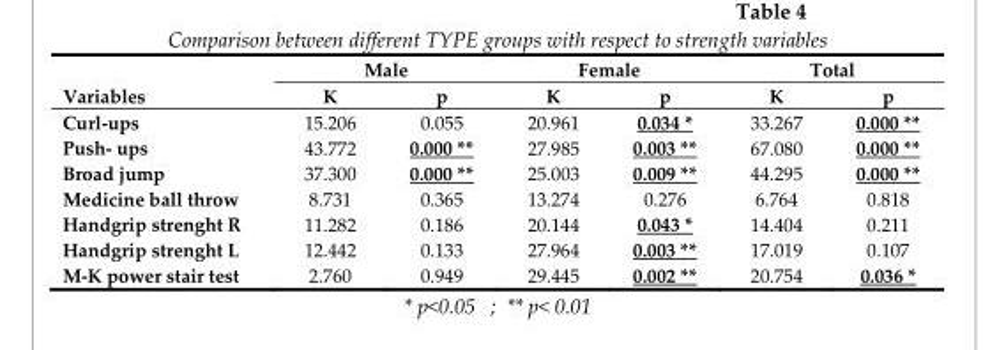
<table><thead><tr><td rowspan="2">Variables</td><td colspan="2">Male</td><td colspan="2">Female</td><td colspan="2">Total</td></tr><tr><td>K</td><td>p</td><td>K</td><td>p</td><td>K</td><td>p</td></tr></thead><tbody><tr><td>Curl-ups</td><td>15.206</td><td>0.055</td><td>20.961</td><td>0.034 *</td><td>33.267</td><td>0.000 **</td></tr><tr><td>Push- ups</td><td>43.772</td><td>0.000 **</td><td>27.985</td><td>0.003 **</td><td>67.080</td><td>0.000 **</td></tr><tr><td>Broad jump</td><td>37.300</td><td>0.000 **</td><td>25.003</td><td>0.009 **</td><td>44.295</td><td>0.000 **</td></tr><tr><td>Medicine ball throw</td><td>8.731</td><td>0.365</td><td>13.274</td><td>0.276</td><td>6.764</td><td>0.818</td></tr><tr><td>Handgrip strenght R</td><td>11.282</td><td>0.186</td><td>20.144</td><td>0.043 *</td><td>14.404</td><td>0.211</td></tr><tr><td>Handgrip strenght L</td><td>12.442</td><td>0.133</td><td>27.964</td><td>0.003 **</td><td>17.019</td><td>0.107</td></tr><tr><td>M-K power stair test</td><td>2.760</td><td>0.949</td><td>29.445</td><td>0.002 **</td><td>20.754</td><td>0.036 *</td></tr></tbody></table>